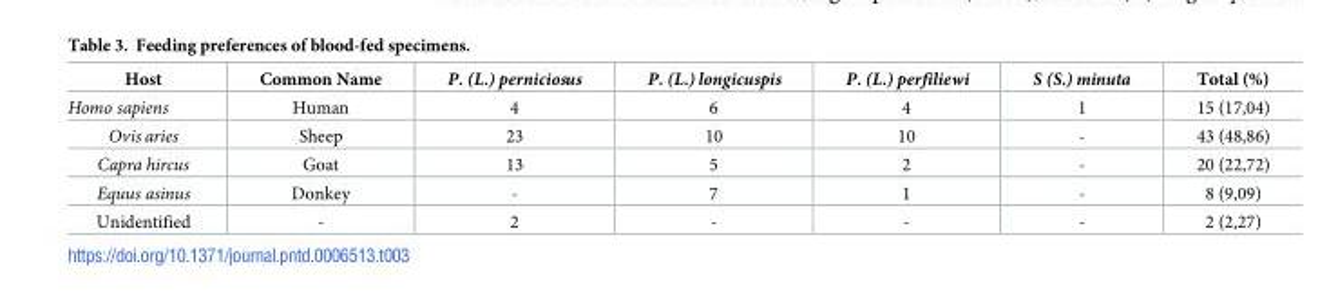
<table><thead><tr><td>Host</td><td>Common Name</td><td>P. (L.) perniciosus</td><td>P. (L.) longicuspis</td><td>P. (L.) perfiliewi</td><td>S (S.) minuta</td><td>Total (%)</td></tr></thead><tbody><tr><td>Homo sapiens</td><td>Human</td><td>4</td><td>6</td><td>4</td><td>1</td><td>15 (17,04)</td></tr><tr><td>Ovis aries</td><td>Sheep</td><td>23</td><td>10</td><td>10</td><td>-</td><td>43 (48,86)</td></tr><tr><td>Capra hircus</td><td>Goat</td><td>13</td><td>5</td><td>2</td><td>-</td><td>20 (22,72)</td></tr><tr><td>Equus asinus</td><td>Donkey</td><td>-</td><td>7</td><td>1</td><td>-</td><td>8 (9,09)</td></tr><tr><td>Unidentified</td><td>-</td><td>2</td><td>-</td><td>-</td><td>-</td><td>2 (2,27)</td></tr></tbody></table>